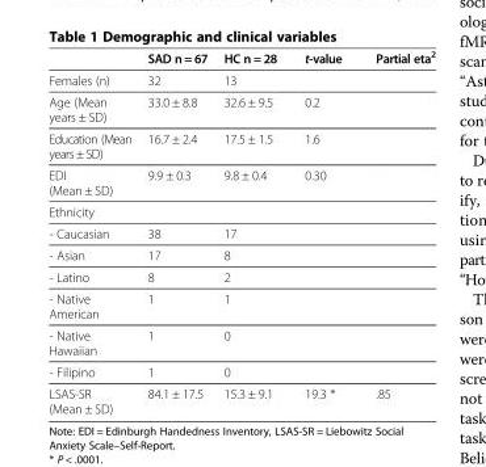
<table><thead><tr><td></td><td>SAD n = 67</td><td>HC n = 28</td><td>t-value</td><td>Partial eta<sup>2</sup></td></tr></thead><tbody><tr><td>Females (n)</td><td>32</td><td>13</td><td></td><td></td></tr><tr><td>Age (Mean years ± SD)</td><td>33.0 ± 8.8</td><td>32.6 ± 9.5</td><td>0.2</td><td></td></tr><tr><td>Education (Mean years ± SD)</td><td>16.7 ± 2.4</td><td>17.5 ± 1.5</td><td>1.6</td><td></td></tr><tr><td>EDI (Mean ± SD)</td><td>9.9 ± 0.3</td><td>9.8 ± 0.4</td><td>0.30</td><td></td></tr><tr><td colspan="5">Ethnicity</td></tr><tr><td>- Caucasian</td><td>38</td><td>17</td><td></td><td></td></tr><tr><td>- Asian</td><td>17</td><td>8</td><td></td><td></td></tr><tr><td>- Latino</td><td>8</td><td>2</td><td></td><td></td></tr><tr><td>- Native American</td><td>1</td><td>1</td><td></td><td></td></tr><tr><td>- Native Hawaiian</td><td>1</td><td>0</td><td></td><td></td></tr><tr><td>- Filipino</td><td>1</td><td>0</td><td></td><td></td></tr><tr><td>LSAS-SR (Mean ± SD)</td><td>84.1 ± 17.5</td><td>15.3 ± 9.1</td><td>19.3 *</td><td>.85</td></tr></tbody></table>